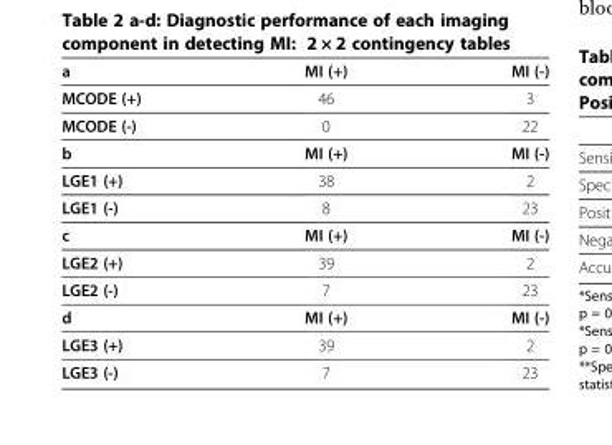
<table><thead><tr><td>a</td><td>MI (+)</td><td>MI (-)</td></tr></thead><tbody><tr><td>MCODE (+)</td><td>46</td><td>3</td></tr><tr><td>MCODE (-)</td><td>0</td><td>22</td></tr><tr><td>b</td><td>MI (+)</td><td>MI (-)</td></tr><tr><td>LGE1 (+)</td><td>38</td><td>2</td></tr><tr><td>LGE1 (-)</td><td>8</td><td>23</td></tr><tr><td>c</td><td>MI (+)</td><td>MI (-)</td></tr><tr><td>LGE2 (+)</td><td>39</td><td>2</td></tr><tr><td>LGE2 (-)</td><td>7</td><td>23</td></tr><tr><td>d</td><td>MI (+)</td><td>MI (-)</td></tr><tr><td>LGE3 (+)</td><td>39</td><td>2</td></tr><tr><td>LGE3 (-)</td><td>7</td><td>23</td></tr></tbody></table>